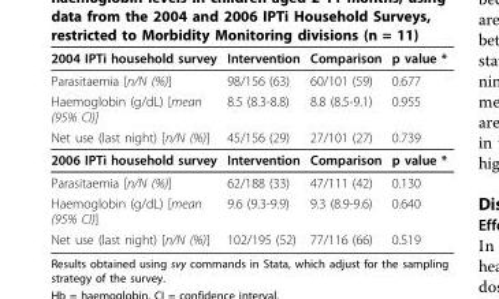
<table><thead><tr><td>2004 IPTi household survey</td><td>Intervention</td><td>Comparison</td><td>p value *</td></tr></thead><tbody><tr><td>Parasitaemia [n/N (%)]</td><td>98/156 (63)</td><td>60/101 (59)</td><td>0.677</td></tr><tr><td>Haemoglobin (g/dL) [mean (95% CI)]</td><td>8.5 (8.3-8.8)</td><td>8.8 (8.5-9.1)</td><td>0.955</td></tr><tr><td>Net use (last night) [n/N (%)]</td><td>45/156 (29)</td><td>27/101 (27)</td><td>0.739</td></tr><tr><td>2006 IPTi household survey</td><td>Intervention</td><td>Comparison</td><td>p value *</td></tr><tr><td>Parasitaemia [n/N (%)]</td><td>62/188 (33)</td><td>47/111 (42)</td><td>0.130</td></tr><tr><td>Haemoglobin (g/dL) [mean (95% CI)]</td><td>9.6 (9.3-9.9)</td><td>9.3 (8.9-9.6)</td><td>0.640</td></tr><tr><td>Net use (last night) [n/N (%)]</td><td>102/195 (52)</td><td>77/116 (66)</td><td>0.519</td></tr></tbody></table>